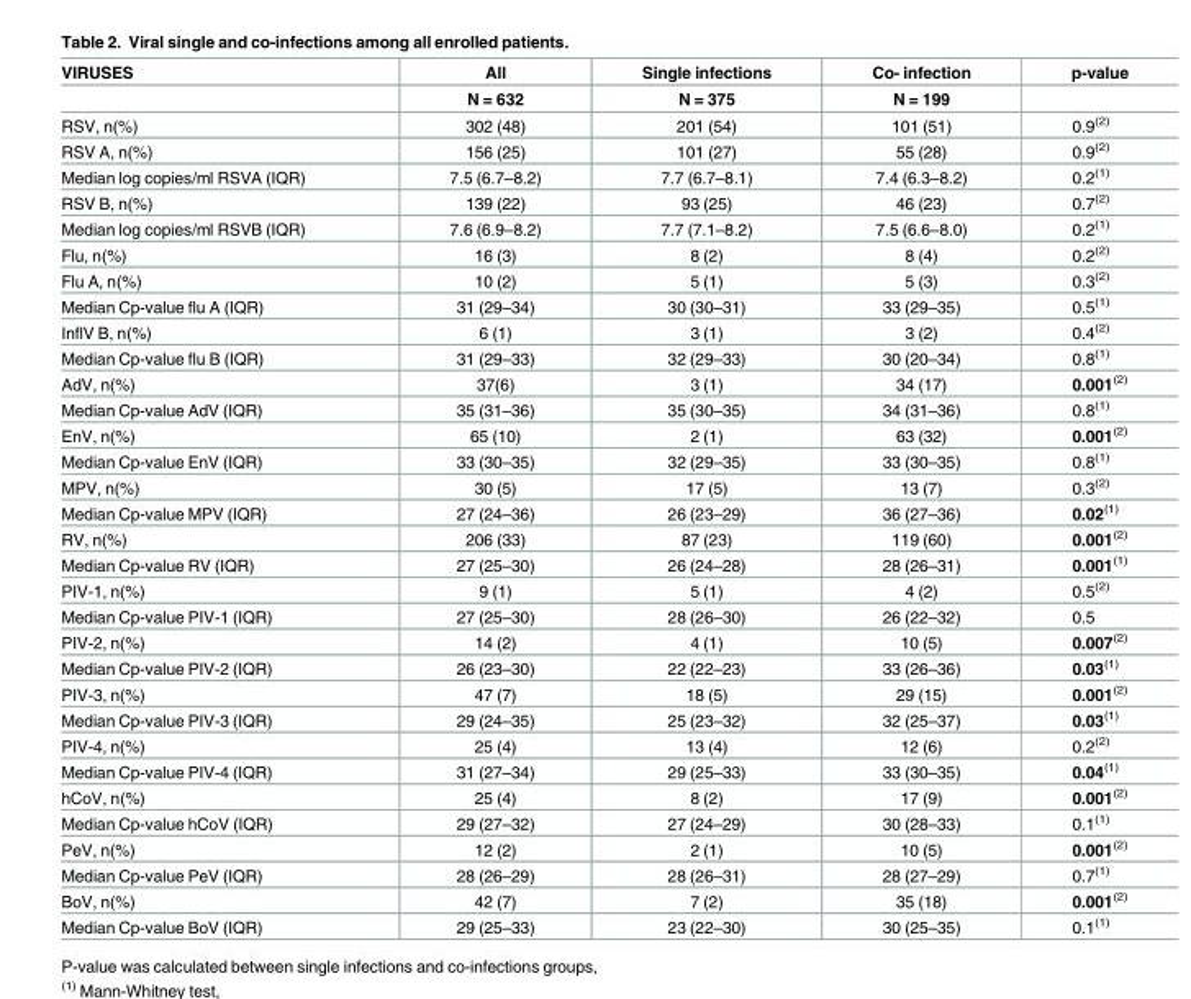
<table><thead><tr><td rowspan="2">VIRUSES</td><td rowspan="2">All N = 632</td><td rowspan="2">Single infections N = 375</td><td rowspan="2">Co- infection N = 199</td><td rowspan="2">p-value</td></tr><tr></tr></thead><tbody><tr><td>RSV, n(%)</td><td>302 (48)</td><td>201 (54)</td><td>101 (51)</td><td>0.9<sup>(2)</sup></td></tr><tr><td>RSV A, n(%)</td><td>156 (25)</td><td>101 (27)</td><td>55 (28)</td><td>0.9<sup>(2)</sup></td></tr><tr><td>Median log copies/ml RSVA (IQR)</td><td>7.5 (6.7–8.2)</td><td>7.7 (6.7–8.1)</td><td>7.4 (6.3–8.2)</td><td>0.2<sup>(1)</sup></td></tr><tr><td>RSV B, n(%)</td><td>139 (22)</td><td>93 (25)</td><td>46 (23)</td><td>0.7<sup>(2)</sup></td></tr><tr><td>Median log copies/ml RSVB (IQR)</td><td>7.6 (6.9–8.2)</td><td>7.7 (7.1–8.2)</td><td>7.5 (6.6–8.0)</td><td>0.2<sup>(1)</sup></td></tr><tr><td>Flu, n(%)</td><td>16 (3)</td><td>8 (2)</td><td>8 (4)</td><td>0.2<sup>(2)</sup></td></tr><tr><td>Flu A, n(%)</td><td>10 (2)</td><td>5 (1)</td><td>5 (3)</td><td>0.3<sup>(2)</sup></td></tr><tr><td>Median Cp-value flu A (IQR)</td><td>31 (29–34)</td><td>30 (30–31)</td><td>33 (29–35)</td><td>0.5<sup>(1)</sup></td></tr><tr><td>InflV B, n(%)</td><td>6 (1)</td><td>3 (1)</td><td>3 (2)</td><td>0.4<sup>(2)</sup></td></tr><tr><td>Median Cp-value flu B (IQR)</td><td>31 (29–33)</td><td>32 (29–33)</td><td>30 (20–34)</td><td>0.8<sup>(1)</sup></td></tr><tr><td>AdV, n(%)</td><td>37(6)</td><td>3 (1)</td><td>34 (17)</td><td>0.001<sup>(2)</sup></td></tr><tr><td>Median Cp-value AdV (IQR)</td><td>35 (31–36)</td><td>35 (30–35)</td><td>34 (31–36)</td><td>0.8<sup>(1)</sup></td></tr><tr><td>EnV, n(%)</td><td>65 (10)</td><td>2 (1)</td><td>63 (32)</td><td>0.001<sup>(2)</sup></td></tr><tr><td>Median Cp-value EnV (IQR)</td><td>33 (30–35)</td><td>32 (29–35)</td><td>33 (30–35)</td><td>0.8<sup>(1)</sup></td></tr><tr><td>MPV, n(%)</td><td>30 (5)</td><td>17 (5)</td><td>13 (7)</td><td>0.3<sup>(2)</sup></td></tr><tr><td>Median Cp-value MPV (IQR)</td><td>27 (24–36)</td><td>26 (23–29)</td><td>36 (27–36)</td><td>0.02<sup>(1)</sup></td></tr><tr><td>RV, n(%)</td><td>206 (33)</td><td>87 (23)</td><td>119 (60)</td><td>0.001<sup>(2)</sup></td></tr><tr><td>Median Cp-value RV (IQR)</td><td>27 (25–30)</td><td>26 (24–28)</td><td>28 (26–31)</td><td>0.001<sup>(1)</sup></td></tr><tr><td>PIV-1, n(%)</td><td>9 (1)</td><td>5 (1)</td><td>4 (2)</td><td>0.5<sup>(2)</sup></td></tr><tr><td>Median Cp-value PIV-1 (IQR)</td><td>27 (25–30)</td><td>28 (26–30)</td><td>26 (22–32)</td><td>0.5</td></tr><tr><td>PIV-2, n(%)</td><td>14 (2)</td><td>4 (1)</td><td>10 (5)</td><td>0.007<sup>(2)</sup></td></tr><tr><td>Median Cp-value PIV-2 (IQR)</td><td>26 (23–30)</td><td>22 (22–23)</td><td>33 (26–36)</td><td>0.03<sup>(1)</sup></td></tr><tr><td>PIV-3, n(%)</td><td>47 (7)</td><td>18 (5)</td><td>29 (15)</td><td>0.001<sup>(2)</sup></td></tr><tr><td>Median Cp-value PIV-3 (IQR)</td><td>29 (24–35)</td><td>25 (23–32)</td><td>32 (25–37)</td><td>0.03<sup>(1)</sup></td></tr><tr><td>PIV-4, n(%)</td><td>25 (4)</td><td>13 (4)</td><td>12 (6)</td><td>0.2<sup>(2)</sup></td></tr><tr><td>Median Cp-value PIV-4 (IQR)</td><td>31 (27–34)</td><td>29 (25–33)</td><td>33 (30–35)</td><td>0.04<sup>(1)</sup></td></tr><tr><td>hCoV, n(%)</td><td>25 (4)</td><td>8 (2)</td><td>17 (9)</td><td>0.001<sup>(2)</sup></td></tr><tr><td>Median Cp-value hCoV (IQR)</td><td>29 (27–32)</td><td>27 (24–29)</td><td>30 (28–33)</td><td>0.1<sup>(1)</sup></td></tr><tr><td>PeV, n(%)</td><td>12 (2)</td><td>2 (1)</td><td>10 (5)</td><td>0.001<sup>(2)</sup></td></tr><tr><td>Median Cp-value PeV (IQR)</td><td>28 (26–29)</td><td>28 (26–31)</td><td>28 (27–29)</td><td>0.7<sup>(1)</sup></td></tr><tr><td>BoV, n(%)</td><td>42 (7)</td><td>7 (2)</td><td>35 (18)</td><td>0.001<sup>(2)</sup></td></tr><tr><td>Median Cp-value BoV (IQR)</td><td>29 (25–33)</td><td>23 (22–30)</td><td>30 (25–35)</td><td>0.1<sup>(1)</sup></td></tr></tbody></table>